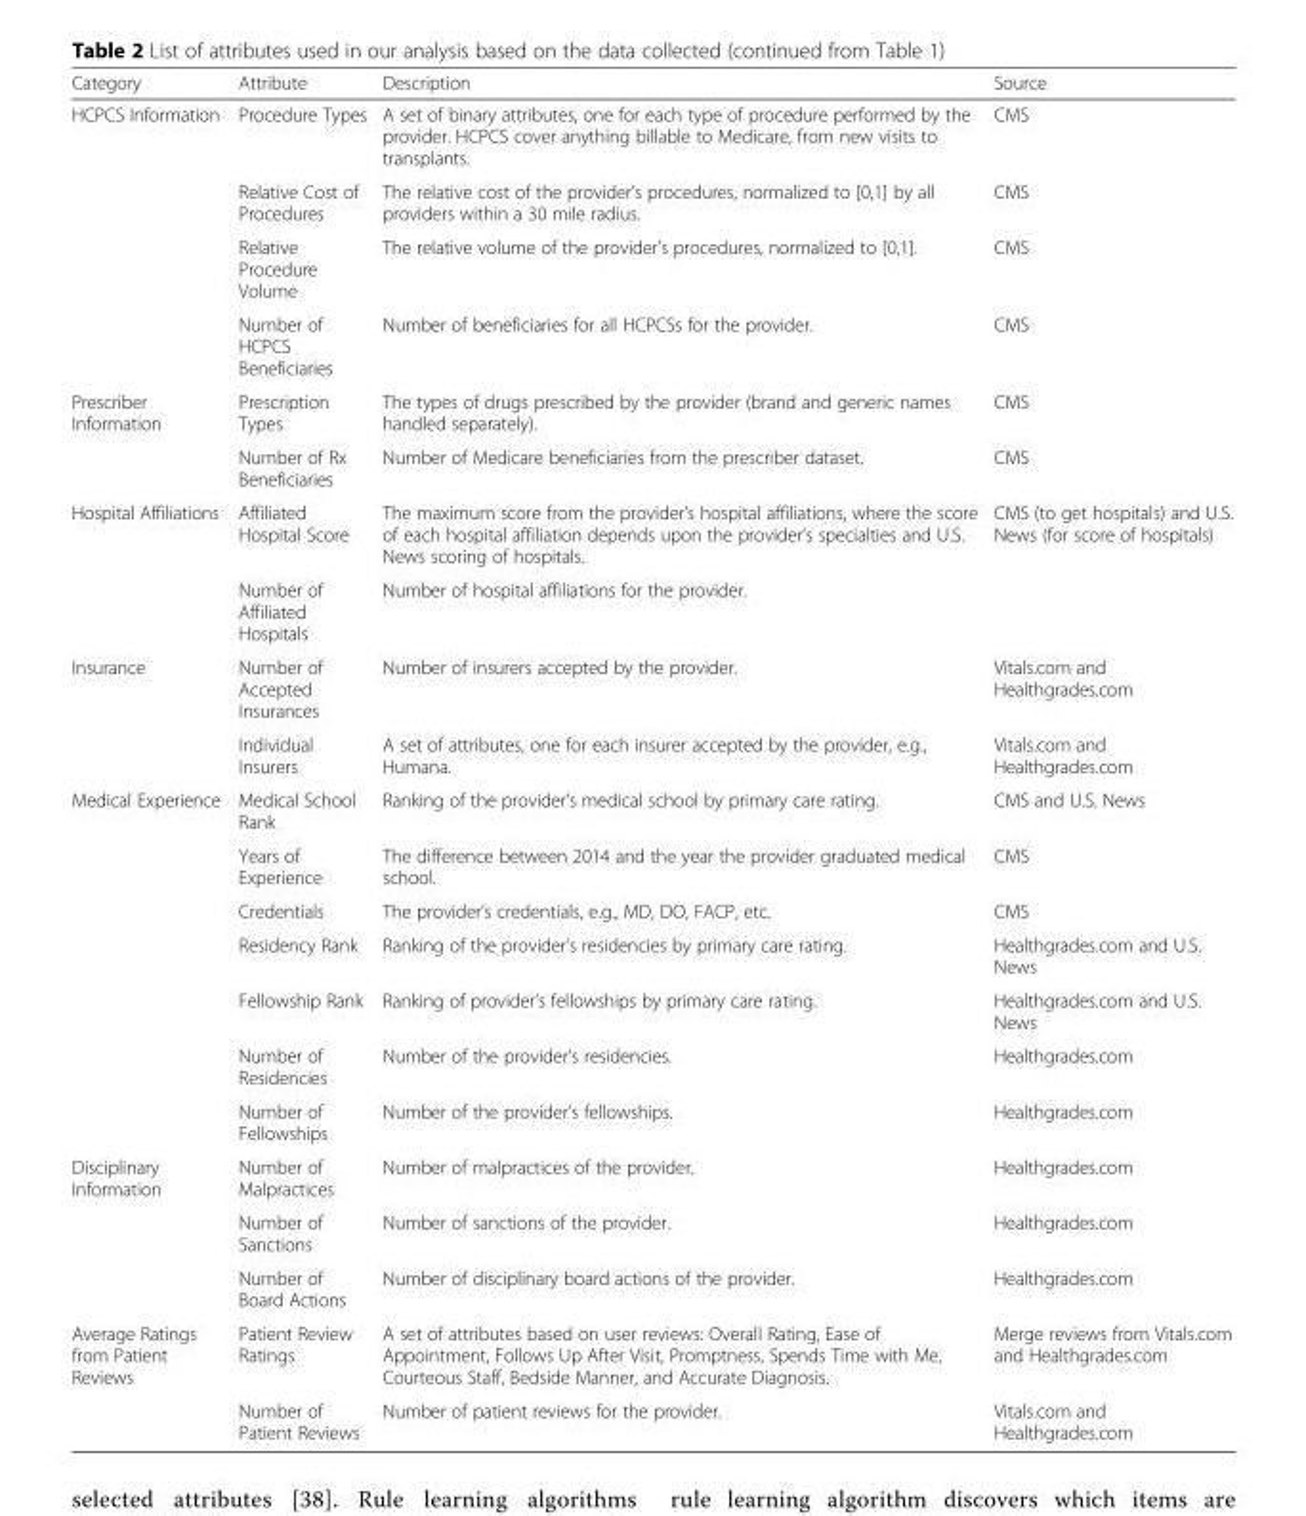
<table><thead><tr><td>Category</td><td>Attribute</td><td>Description</td><td>Source</td></tr></thead><tbody><tr><td rowspan="4">HCPCS Information</td><td>Procedure Types</td><td>A set of binary attributes, one for each type of procedure performed by the provider. HCPCS cover anything billable to Medicare, from new visits to transplants.</td><td>CMS</td></tr><tr><td>Relative Cost of Procedures</td><td>The relative cost of the provider’s procedures, normalized to [0,1] by all providers within a 30 mile radius.</td><td>CMS</td></tr><tr><td>Relative Procedure Volume</td><td>The relative volume of the provider’s procedures, normalized to [0,1].</td><td>CMS</td></tr><tr><td>Number of HCPCS Beneficiaries</td><td>Number of beneficiaries for all HCPCSs for the provider.</td><td>CMS</td></tr><tr><td rowspan="2">Prescriber Information</td><td>Prescription Types</td><td>The types of drugs prescribed by the provider (brand and generic names handled separately).</td><td>CMS</td></tr><tr><td>Number of Rx Beneficiaries</td><td>Number of Medicare beneficiaries from the prescriber dataset.</td><td>CMS</td></tr><tr><td rowspan="2">Hospital Affiliations</td><td>Affiliated Hospital Score</td><td>The maximum score from the provider’s hospital affiliations, where the score of each hospital affiliation depends upon the provider’s specialties and U.S. News scoring of hospitals.</td><td>CMS (to get hospitals) and U.S. News (for score of hospitals)</td></tr><tr><td>Number of Affiliated Hospitals</td><td>Number of hospital affiliations for the provider.</td><td></td></tr><tr><td rowspan="2">Insurance</td><td>Number of Accepted Insurances</td><td>Number of insurers accepted by the provider.</td><td>Vitals.com and Healthgrades.com</td></tr><tr><td>Individual Insurers</td><td>A set of attributes, one for each insurer accepted by the provider, e.g., Humana.</td><td>Vitals.com and Healthgrades.com</td></tr><tr><td rowspan="7">Medical Experience</td><td>Medical School Rank</td><td>Ranking of the provider’s medical school by primary care rating.</td><td>CMS and U.S. News</td></tr><tr><td>Years of Experience</td><td>The difference between 2014 and the year the provider graduated medical school.</td><td>CMS</td></tr><tr><td>Credentials</td><td>The provider’s credentials, e.g., MD, DO, FACP, etc.</td><td>CMS</td></tr><tr><td>Residency Rank</td><td>Ranking of the provider’s residencies by primary care rating.</td><td>Healthgrades.com and U.S. News</td></tr><tr><td>Fellowship Rank</td><td>Ranking of provider’s fellowships by primary care rating.</td><td>Healthgrades.com and U.S. News</td></tr><tr><td>Number of Residencies</td><td>Number of the provider’s residencies.</td><td>Healthgrades.com</td></tr><tr><td>Number of Fellowships</td><td>Number of the provider’s fellowships.</td><td>Healthgrades.com</td></tr><tr><td rowspan="3">Disciplinary Information</td><td>Number of Malpractices</td><td>Number of malpractices of the provider.</td><td>Healthgrades.com</td></tr><tr><td>Number of Sanctions</td><td>Number of sanctions of the provider.</td><td>Healthgrades.com</td></tr><tr><td>Number of Board Actions</td><td>Number of disciplinary board actions of the provider.</td><td>Healthgrades.com</td></tr><tr><td rowspan="2">Average Ratings from Patient Reviews</td><td>Patient Review Ratings</td><td>A set of attributes based on user reviews: Overall Rating, Ease of Appointment, Follows Up After Visit, Promptness, Spends Time with Me, Courteous Staff, Bedside Manner, and Accurate Diagnosis.</td><td>Merge reviews from Vitals.com and Healthgrades.com</td></tr><tr><td>Number of Patient Reviews</td><td>Number of patient reviews for the provider.</td><td>Vitals.com and Healthgrades.com</td></tr></tbody></table>